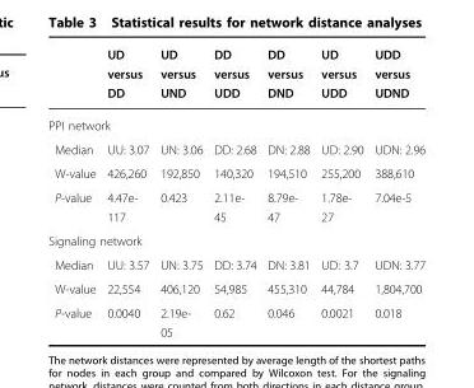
<table><thead><tr><td></td><td>UD versus DD</td><td>UD versus UND</td><td>DD versus UDD</td><td>DD versus DND</td><td>UD versus UDD</td><td>UDD versus UDND</td></tr></thead><tbody><tr><td colspan="7">PPI network</td></tr><tr><td>Median</td><td>UU: 3.07</td><td>UN: 3.06</td><td>DD: 2.68</td><td>DN: 2.88</td><td>UD: 2.90</td><td>UDN: 2.96</td></tr><tr><td>W-value</td><td>426,260</td><td>192,850</td><td>140,320</td><td>194,510</td><td>255,200</td><td>388,610</td></tr><tr><td>P-value</td><td>4.47e- 117</td><td>0.423</td><td>2.11e- 45</td><td>8.79e- 47</td><td>1.78e- 27</td><td>7.04e-5</td></tr><tr><td colspan="7">Signaling network</td></tr><tr><td>Median</td><td>UU: 3.57</td><td>UN: 3.75</td><td>DD: 3.74</td><td>DN: 3.81</td><td>UD: 3.7</td><td>UDN: 3.77</td></tr><tr><td>W-value</td><td>22,554</td><td>406,120</td><td>54,985</td><td>455,310</td><td>44,784</td><td>1,804,700</td></tr><tr><td>P-value</td><td>0.0040</td><td>2.19e- 05</td><td>0.62</td><td>0.046</td><td>0.0021</td><td>0.018</td></tr></tbody></table>